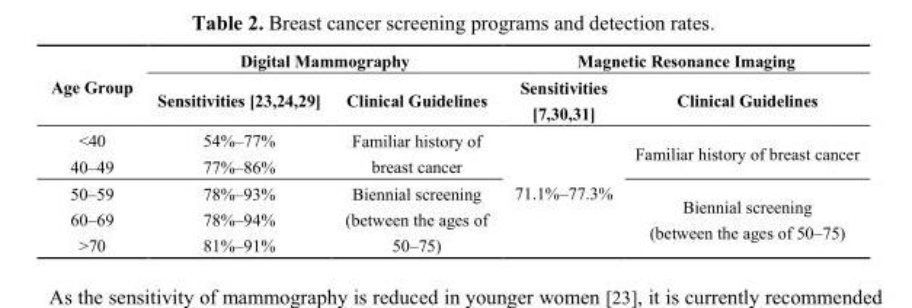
<table><thead><tr><td rowspan="2">Age Group</td><td colspan="2">Digital Mammography</td><td colspan="2">Magnetic Resonance Imaging</td></tr><tr><td>Sensitivities [23,24,29]</td><td>Clinical Guidelines</td><td>Sensitivities [7,30,31]</td><td>Clinical Guidelines</td></tr></thead><tbody><tr><td>&lt;40</td><td>54%–77%</td><td rowspan="2">Familiar history of breast cancer</td><td rowspan="5">71.1%–77.3%</td><td rowspan="2">Familiar history of breast cancer</td></tr><tr><td>40–49</td><td>77%–86%</td></tr><tr><td>50–59</td><td>78%–93%</td><td rowspan="3">Biennial screening (between the ages of 50–75)</td><td rowspan="3">Biennial screening (between the ages of 50–75)</td></tr><tr><td>60–69</td><td>78%–94%</td></tr><tr><td>&gt;70</td><td>81%–91%</td></tr></tbody></table>